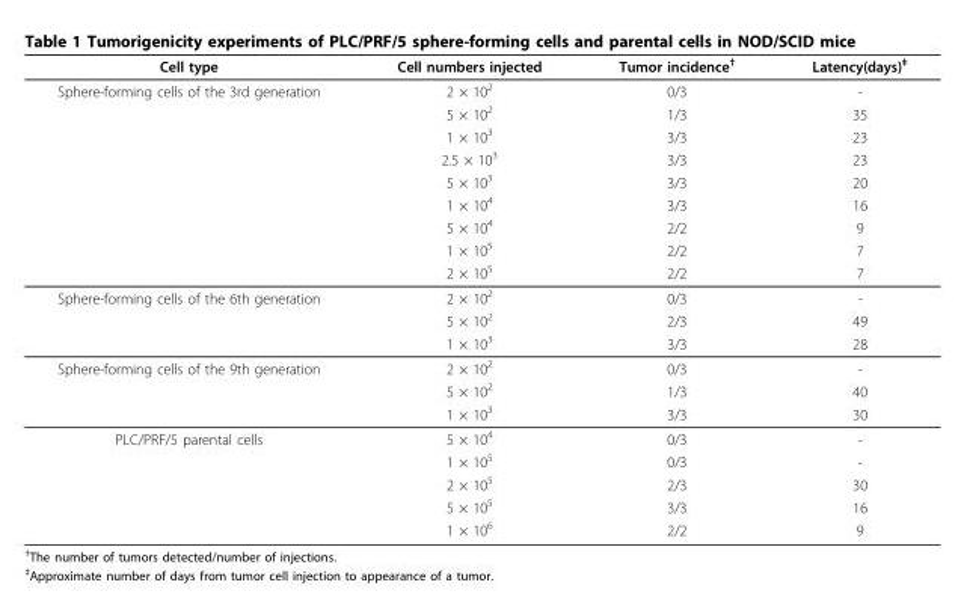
<table><thead><tr><td>Cell type</td><td>Cell numbers injected</td><td>Tumor incidence<sup>†</sup></td><td>Latency(days)<sup>‡</sup></td></tr></thead><tbody><tr><td rowspan="9">Sphere-forming cells of the 3rd generation</td><td>2 × 10<sup>2</sup></td><td>0/3</td><td>-</td></tr><tr><td>5 × 10<sup>2</sup></td><td>1/3</td><td>35</td></tr><tr><td>1 × 10<sup>3</sup></td><td>3/3</td><td>23</td></tr><tr><td>2.5 × 10<sup>3</sup></td><td>3/3</td><td>23</td></tr><tr><td>5 × 10<sup>3</sup></td><td>3/3</td><td>20</td></tr><tr><td>1 × 10<sup>4</sup></td><td>3/3</td><td>16</td></tr><tr><td>5 × 10<sup>4</sup></td><td>2/2</td><td>9</td></tr><tr><td>1 × 10<sup>5</sup></td><td>2/2</td><td>7</td></tr><tr><td>2 × 10<sup>5</sup></td><td>2/2</td><td>7</td></tr><tr><td rowspan="3">Sphere-forming cells of the 6th generation</td><td>2 × 10<sup>2</sup></td><td>0/3</td><td>-</td></tr><tr><td>5 × 10<sup>2</sup></td><td>2/3</td><td>49</td></tr><tr><td>1 × 10<sup>3</sup></td><td>3/3</td><td>28</td></tr><tr><td rowspan="3">Sphere-forming cells of the 9th generation</td><td>2 × 10<sup>2</sup></td><td>0/3</td><td>-</td></tr><tr><td>5 × 10<sup>2</sup></td><td>1/3</td><td>40</td></tr><tr><td>1 × 10<sup>3</sup></td><td>3/3</td><td>30</td></tr><tr><td rowspan="5">PLC/PRF/5 parental cells</td><td>5 × 10<sup>4</sup></td><td>0/3</td><td>-</td></tr><tr><td>1 × 10<sup>5</sup></td><td>0/3</td><td>-</td></tr><tr><td>2 × 10<sup>5</sup></td><td>2/3</td><td>30</td></tr><tr><td>5 × 10<sup>5</sup></td><td>3/3</td><td>16</td></tr><tr><td>1 × 10<sup>6</sup></td><td>2/2</td><td>9</td></tr></tbody></table>